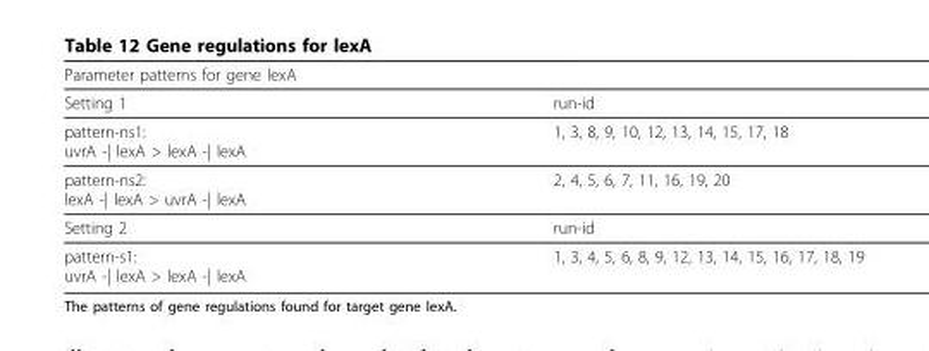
<table><thead><tr><td>Parameter patterns for gene lexA</td><td></td></tr></thead><tbody><tr><td>Setting 1</td><td>run-id</td></tr><tr><td>pattern-ns1: uvrA -| lexA &gt; lexA -| lexA</td><td>1, 3, 8, 9, 10, 12, 13, 14, 15, 17, 18</td></tr><tr><td>pattern-ns2: lexA -| lexA &gt; uvrA -| lexA</td><td>2, 4, 5, 6, 7, 11, 16, 19, 20</td></tr><tr><td>Setting 2</td><td>run-id</td></tr><tr><td>pattern-s1: uvrA -| lexA &gt; lexA -| lexA</td><td>1, 3, 4, 5, 6, 8, 9, 12, 13, 14, 15, 16, 17, 18, 19</td></tr></tbody></table>